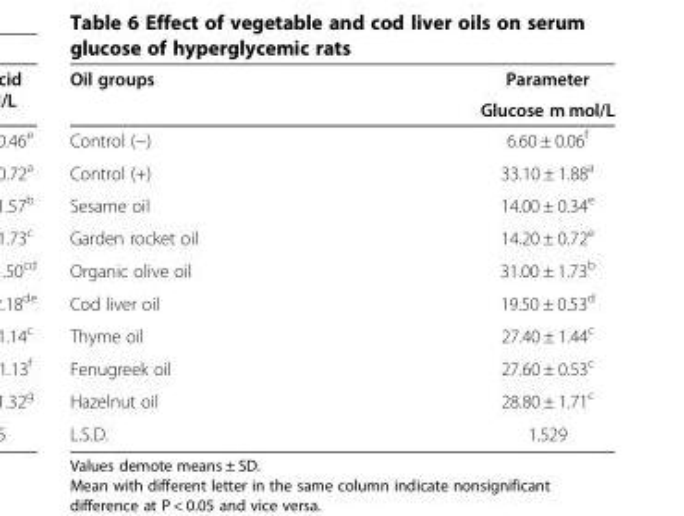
<table><thead><tr><td rowspan="2">Oil groups</td><td rowspan="2">Parameter Glucose m mol/L</td></tr><tr></tr></thead><tbody><tr><td>Control (−)</td><td>6.60 ± 0.06<sup>f</sup></td></tr><tr><td>Control (+)</td><td>33.10 ± 1.88<sup>a</sup></td></tr><tr><td>Sesame oil</td><td>14.00 ± 0.34<sup>e</sup></td></tr><tr><td>Garden rocket oil</td><td>14.20 ± 0.72<sup>e</sup></td></tr><tr><td>Organic olive oil</td><td>31.00 ± 1.73<sup>b</sup></td></tr><tr><td>Cod liver oil</td><td>19.50 ± 0.53<sup>d</sup></td></tr><tr><td>Thyme oil</td><td>27.40 ± 1.44<sup>c</sup></td></tr><tr><td>Fenugreek oil</td><td>27.60 ± 0.53<sup>c</sup></td></tr><tr><td>Hazelnut oil</td><td>28.80 ± 1.71<sup>c</sup></td></tr><tr><td>L.S.D.</td><td>1.529</td></tr></tbody></table>